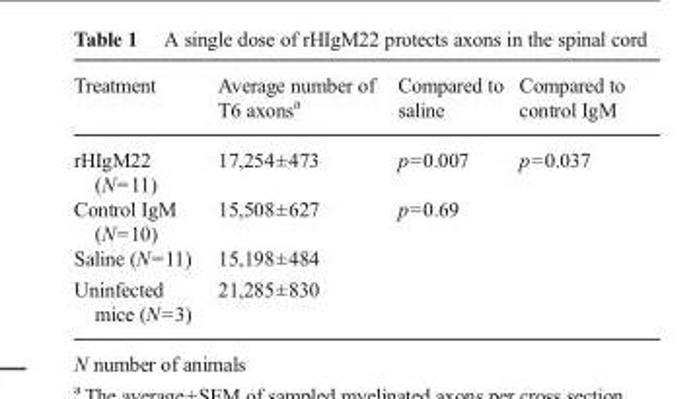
<table><thead><tr><td>Treatment</td><td>Average number of T6 axons<sup>a</sup></td><td>Compared to saline</td><td>Compared to control IgM</td></tr></thead><tbody><tr><td>rHIgM22 (N=11)</td><td>17,254±473</td><td>p=0.007</td><td>p=0.037</td></tr><tr><td>Control IgM (N=10)</td><td>15,508±627</td><td>p=0.69</td><td></td></tr><tr><td>Saline (N=11)</td><td>15,198±484</td><td></td><td></td></tr><tr><td>Uninfected mice (N=3)</td><td>21,285±830</td><td></td><td></td></tr></tbody></table>